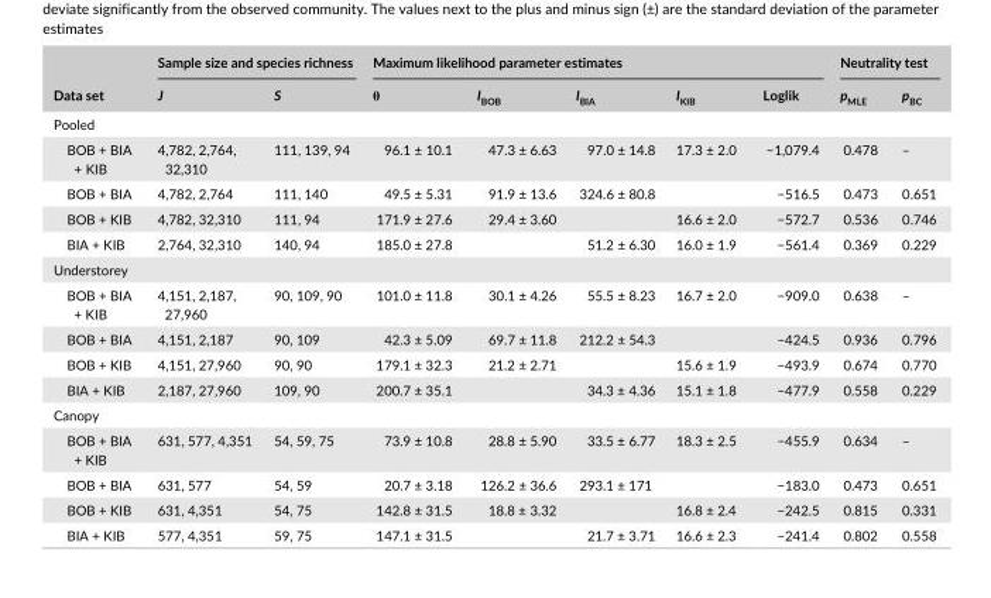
<table><thead><tr><td rowspan="2">Data set</td><td colspan="2">Sample size and species richness</td><td colspan="5">Maximum likelihood parameter estimates</td><td colspan="2">Neutrality test</td></tr><tr><td>J</td><td>S</td><td>θ</td><td>I<sub>BOB</sub></td><td>I<sub>BIA</sub></td><td>I<sub>KIB</sub></td><td>Loglik</td><td>p<sub>MLE</sub></td><td>p<sub>BC</sub></td></tr></thead><tbody><tr><td colspan="10">Pooled</td></tr><tr><td>BOB + BIA + KIB</td><td>4,782, 2,764, 32,310</td><td>111, 139, 94</td><td>96.1 ± 10.1</td><td>47.3 ± 6.63</td><td>97.0 ± 14.8</td><td>17.3 ± 2.0</td><td>−1,079.4</td><td>0.478</td><td>–</td></tr><tr><td>BOB + BIA</td><td>4,782, 2,764</td><td>111, 140</td><td>49.5 ± 5.31</td><td>91.9 ± 13.6</td><td>324.6 ± 80.8</td><td></td><td>−516.5</td><td>0.473</td><td>0.651</td></tr><tr><td>BOB + KIB</td><td>4,782, 32,310</td><td>111, 94</td><td>171.9 ± 27.6</td><td>29.4 ± 3.60</td><td></td><td>16.6 ± 2.0</td><td>−572.7</td><td>0.536</td><td>0.746</td></tr><tr><td>BIA + KIB</td><td>2,764, 32,310</td><td>140, 94</td><td>185.0 ± 27.8</td><td></td><td>51.2 ± 6.30</td><td>16.0 ± 1.9</td><td>−561.4</td><td>0.369</td><td>0.229</td></tr><tr><td colspan="10">Understorey</td></tr><tr><td>BOB + BIA + KIB</td><td>4,151, 2,187, 27,960</td><td>90, 109, 90</td><td>101.0 ± 11.8</td><td>30.1 ± 4.26</td><td>55.5 ± 8.23</td><td>16.7 ± 2.0</td><td>−909.0</td><td>0.638</td><td>–</td></tr><tr><td>BOB + BIA</td><td>4,151, 2,187</td><td>90, 109</td><td>42.3 ± 5.09</td><td>69.7 ± 11.8</td><td>212.2 ± 54.3</td><td></td><td>−424.5</td><td>0.936</td><td>0.796</td></tr><tr><td>BOB + KIB</td><td>4,151, 27,960</td><td>90, 90</td><td>179.1 ± 32.3</td><td>21.2 ± 2.71</td><td></td><td>15.6 ± 1.9</td><td>−493.9</td><td>0.674</td><td>0.770</td></tr><tr><td>BIA + KIB</td><td>2,187, 27,960</td><td>109, 90</td><td>200.7 ± 35.1</td><td></td><td>34.3 ± 4.36</td><td>15.1 ± 1.8</td><td>−477.9</td><td>0.558</td><td>0.229</td></tr><tr><td colspan="10">Canopy</td></tr><tr><td>BOB + BIA + KIB</td><td>631, 577, 4,351</td><td>54, 59, 75</td><td>73.9 ± 10.8</td><td>28.8 ± 5.90</td><td>33.5 ± 6.77</td><td>18.3 ± 2.5</td><td>−455.9</td><td>0.634</td><td>–</td></tr><tr><td>BOB + BIA</td><td>631, 577</td><td>54, 59</td><td>20.7 ± 3.18</td><td>126.2 ± 36.6</td><td>293.1 ± 171</td><td></td><td>−183.0</td><td>0.473</td><td>0.651</td></tr><tr><td>BOB + KIB</td><td>631, 4,351</td><td>54, 75</td><td>142.8 ± 31.5</td><td>18.8 ± 3.32</td><td></td><td>16.8 ± 2.4</td><td>−242.5</td><td>0.815</td><td>0.331</td></tr><tr><td>BIA + KIB</td><td>577, 4,351</td><td>59, 75</td><td>147.1 ± 31.5</td><td></td><td>21.7 ± 3.71</td><td>16.6 ± 2.3</td><td>−241.4</td><td>0.802</td><td>0.558</td></tr></tbody></table>